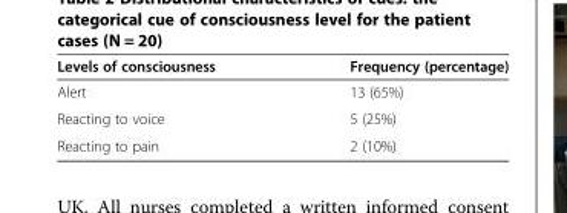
<table><thead><tr><td>Levels of consciousness</td><td>Frequency (percentage)</td></tr></thead><tbody><tr><td>Alert</td><td>13 (65%)</td></tr><tr><td>Reacting to voice</td><td>5 (25%)</td></tr><tr><td>Reacting to pain</td><td>2 (10%)</td></tr></tbody></table>